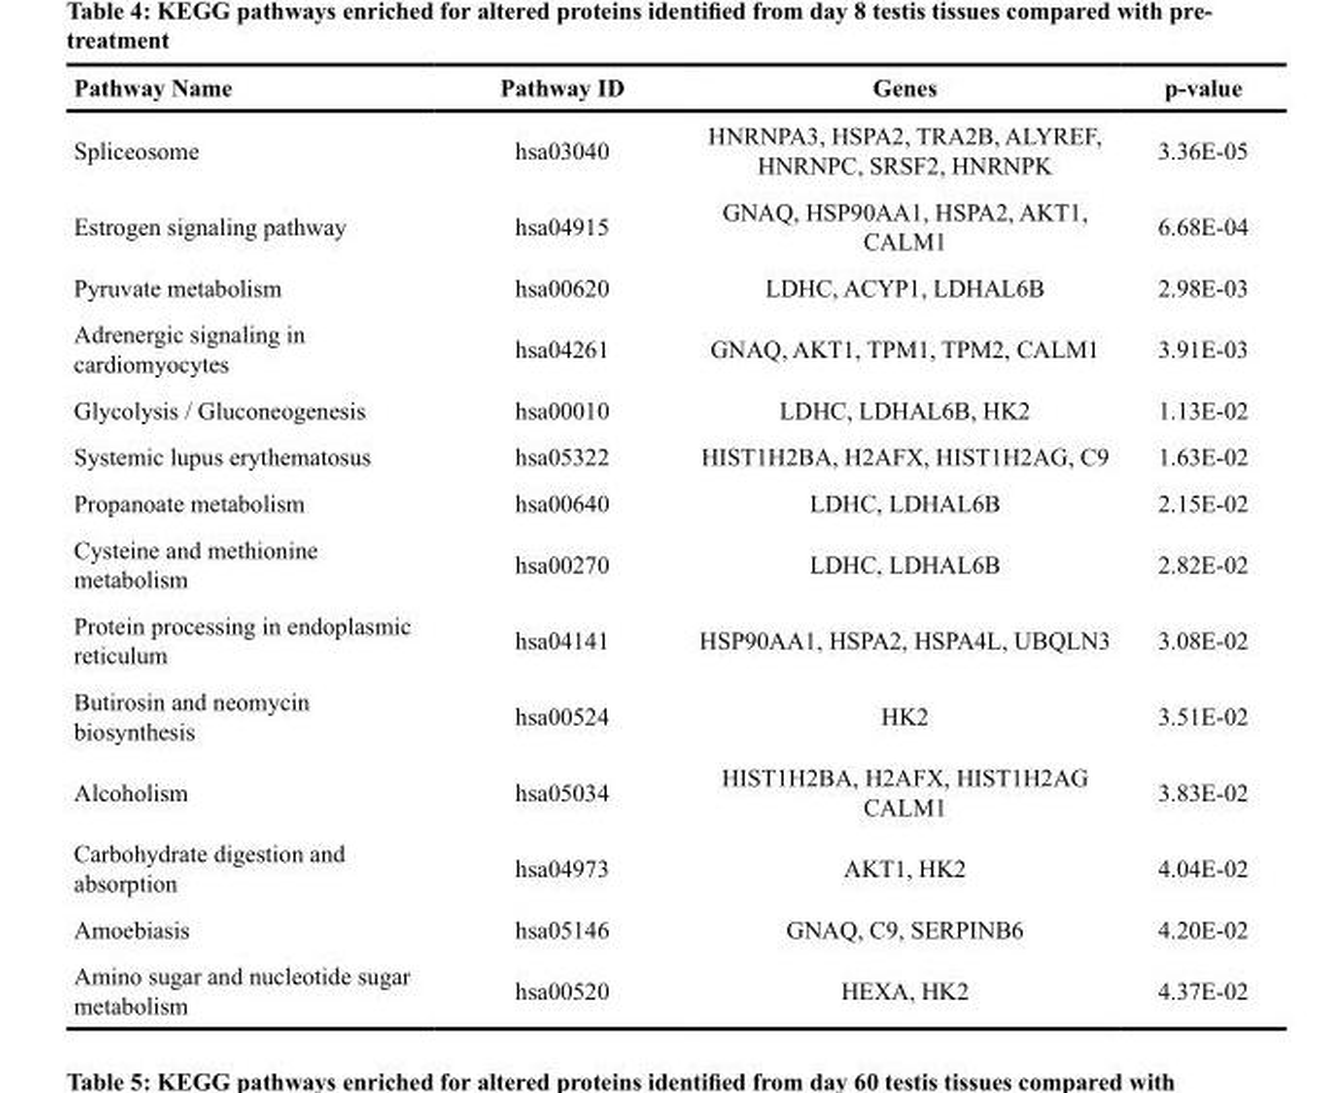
<table><thead><tr><td>Pathway Name</td><td>Pathway ID</td><td>Genes</td><td>p-value</td></tr></thead><tbody><tr><td>Spliceosome</td><td>hsa03040</td><td>HNRNPA3, HSPA2, TRA2B, ALYREF, HNRNPC, SRSF2, HNRNPK</td><td>3.36E-05</td></tr><tr><td>Estrogen signaling pathway</td><td>hsa04915</td><td>GNAQ, HSP90AA1, HSPA2, AKT1, CALM1</td><td>6.68E-04</td></tr><tr><td>Pyruvate metabolism</td><td>hsa00620</td><td>LDHC, ACYP1, LDHAL6B</td><td>2.98E-03</td></tr><tr><td>Adrenergic signaling in cardiomyocytes</td><td>hsa04261</td><td>GNAQ, AKT1, TPM1, TPM2, CALM1</td><td>3.91E-03</td></tr><tr><td>Glycolysis / Gluconeogenesis</td><td>hsa00010</td><td>LDHC, LDHAL6B, HK2</td><td>1.13E-02</td></tr><tr><td>Systemic lupus erythematosus</td><td>hsa05322</td><td>HIST1H2BA, H2AFX, HIST1H2AG, C9</td><td>1.63E-02</td></tr><tr><td>Propanoate metabolism</td><td>hsa00640</td><td>LDHC, LDHAL6B</td><td>2.15E-02</td></tr><tr><td>Cysteine and methionine metabolism</td><td>hsa00270</td><td>LDHC, LDHAL6B</td><td>2.82E-02</td></tr><tr><td>Protein processing in endoplasmic reticulum</td><td>hsa04141</td><td>HSP90AA1, HSPA2, HSPA4L, UBQLN3</td><td>3.08E-02</td></tr><tr><td>Butirosin and neomycin biosynthesis</td><td>hsa00524</td><td>HK2</td><td>3.51E-02</td></tr><tr><td>Alcoholism</td><td>hsa05034</td><td>HIST1H2BA, H2AFX, HIST1H2AG CALM1</td><td>3.83E-02</td></tr><tr><td>Carbohydrate digestion and absorption</td><td>hsa04973</td><td>AKT1, HK2</td><td>4.04E-02</td></tr><tr><td>Amoebiasis</td><td>hsa05146</td><td>GNAQ, C9, SERPINB6</td><td>4.20E-02</td></tr><tr><td>Amino sugar and nucleotide sugar metabolism</td><td>hsa00520</td><td>HEXA, HK2</td><td>4.37E-02</td></tr></tbody></table>